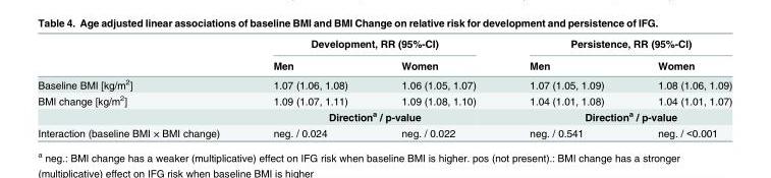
<table><thead><tr><td rowspan="2"></td><td colspan="2">Development, RR (95%-CI)</td><td colspan="2">Persistence, RR (95%-CI)</td></tr><tr><td>Men</td><td>Women</td><td>Men</td><td>Women</td></tr></thead><tbody><tr><td>Baseline BMI [kg/m<sup>2</sup>]</td><td>1.07 (1.06, 1.08)</td><td>1.06 (1.05, 1.07)</td><td>1.07 (1.05, 1.09)</td><td>1.08 (1.06, 1.09)</td></tr><tr><td rowspan="2">BMI change [kg/m<sup>2</sup>]</td><td>1.09 (1.07, 1.11)</td><td>1.09 (1.08, 1.10)</td><td>1.04 (1.01, 1.08)</td><td>1.04 (1.01, 1.07)</td></tr><tr><td colspan="2">Direction<sup>a</sup> / p-value</td><td colspan="2">Direction<sup>a</sup> / p-value</td></tr><tr><td>Interaction (baseline BMI × BMI change)</td><td>neg. / 0.024</td><td>neg. / 0.022</td><td>neg. / 0.541</td><td>neg. / &lt;0.001</td></tr></tbody></table>